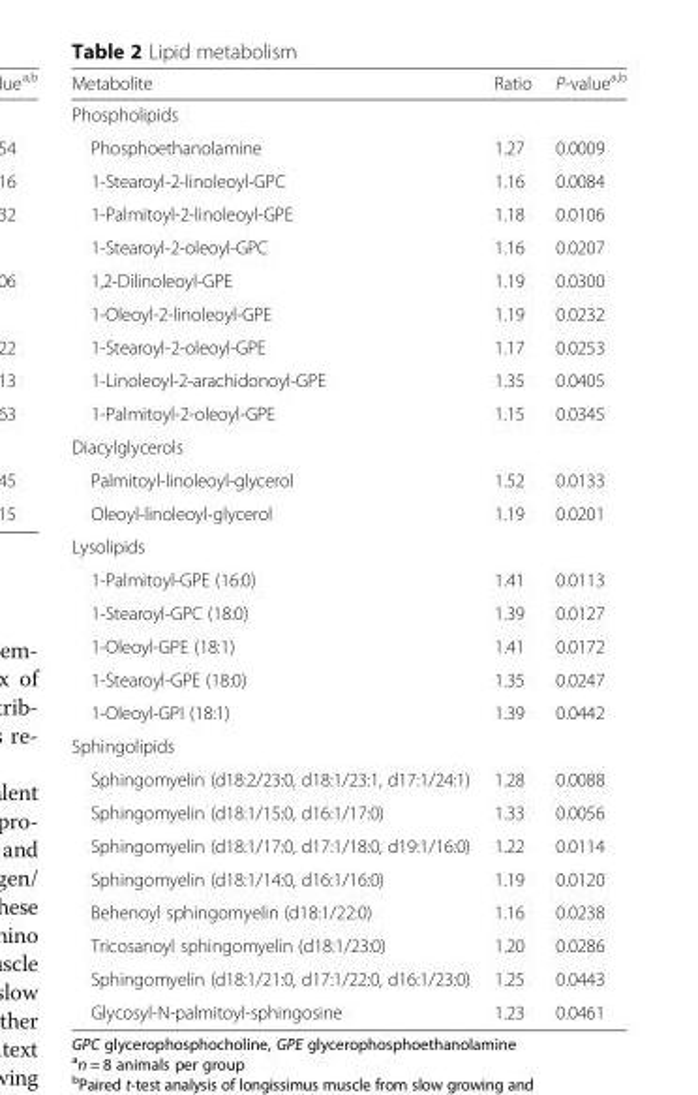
<table><thead><tr><td>Metabolite</td><td>Ratio</td><td>P-value<sup>a,b</sup></td></tr></thead><tbody><tr><td colspan="3">Phospholipids</td></tr><tr><td>Phosphoethanolamine</td><td>1.27</td><td>0.0009</td></tr><tr><td>1-Stearoyl-2-linoleoyl-GPC</td><td>1.16</td><td>0.0084</td></tr><tr><td>1-Palmitoyl-2-linoleoyl-GPE</td><td>1.18</td><td>0.0106</td></tr><tr><td>1-Stearoyl-2-oleoyl-GPC</td><td>1.16</td><td>0.0207</td></tr><tr><td>1,2-Dilinoleoyl-GPE</td><td>1.19</td><td>0.0300</td></tr><tr><td>1-Oleoyl-2-linoleoyl-GPE</td><td>1.19</td><td>0.0232</td></tr><tr><td>1-Stearoyl-2-oleoyl-GPE</td><td>1.17</td><td>0.0253</td></tr><tr><td>1-Linoleoyl-2-arachidonoyl-GPE</td><td>1.35</td><td>0.0405</td></tr><tr><td>1-Palmitoyl-2-oleoyl-GPE</td><td>1.15</td><td>0.0345</td></tr><tr><td colspan="3">Diacylglycerols</td></tr><tr><td>Palmitoyl-linoleoyl-glycerol</td><td>1.52</td><td>0.0133</td></tr><tr><td>Oleoyl-linoleoyl-glycerol</td><td>1.19</td><td>0.0201</td></tr><tr><td colspan="3">Lysolipids</td></tr><tr><td>1-Palmitoyl-GPE (16:0)</td><td>1.41</td><td>0.0113</td></tr><tr><td>1-Stearoyl-GPC (18:0)</td><td>1.39</td><td>0.0127</td></tr><tr><td>1-Oleoyl-GPE (18:1)</td><td>1.41</td><td>0.0172</td></tr><tr><td>1-Stearoyl-GPE (18:0)</td><td>1.35</td><td>0.0247</td></tr><tr><td>1-Oleoyl-GPI (18:1)</td><td>1.39</td><td>0.0442</td></tr><tr><td colspan="3">Sphingolipids</td></tr><tr><td>Sphingomyelin (d18:2/23:0, d18:1/23:1, d17:1/24:1)</td><td>1.28</td><td>0.0088</td></tr><tr><td>Sphingomyelin (d18:1/15:0, d16:1/17:0)</td><td>1.33</td><td>0.0056</td></tr><tr><td>Sphingomyelin (d18:1/17:0, d17:1/18:0, d19:1/16:0)</td><td>1.22</td><td>0.0114</td></tr><tr><td>Sphingomyelin (d18:1/14:0, d16:1/16:0)</td><td>1.19</td><td>0.0120</td></tr><tr><td>Behenoyl sphingomyelin (d18:1/22:0)</td><td>1.16</td><td>0.0238</td></tr><tr><td>Tricosanoyl sphingomyelin (d18:1/23:0)</td><td>1.20</td><td>0.0286</td></tr><tr><td>Sphingomyelin (d18:1/21:0, d17:1/22:0, d16:1/23:0)</td><td>1.25</td><td>0.0443</td></tr><tr><td>Glycosyl-N-palmitoyl-sphingosine</td><td>1.23</td><td>0.0461</td></tr></tbody></table>